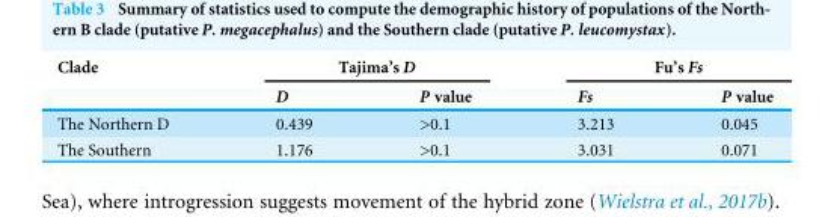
<table><thead><tr><td rowspan="2">Clade</td><td colspan="2">Tajima’s D</td><td colspan="2">Fu’s Fs</td></tr><tr><td>D</td><td>P value</td><td>Fs</td><td>P value</td></tr></thead><tbody><tr><td>The Northern D</td><td>0.439</td><td>&gt;0.1</td><td>3.213</td><td>0.045</td></tr><tr><td>The Southern</td><td>1.176</td><td>&gt;0.1</td><td>3.031</td><td>0.071</td></tr></tbody></table>